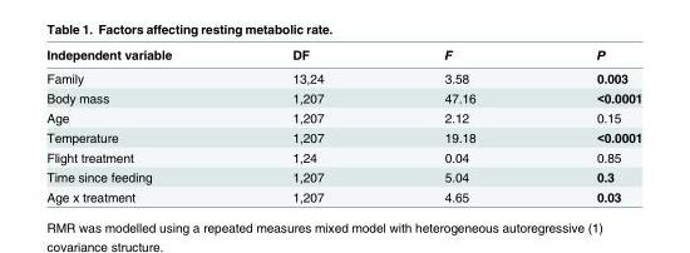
<table><thead><tr><td>Independent variable</td><td>DF</td><td>F</td><td>P</td></tr></thead><tbody><tr><td>Family</td><td>13,24</td><td>3.58</td><td>0.003</td></tr><tr><td>Body mass</td><td>1,207</td><td>47.16</td><td>&lt;0.0001</td></tr><tr><td>Age</td><td>1,207</td><td>2.12</td><td>0.15</td></tr><tr><td>Temperature</td><td>1,207</td><td>19.18</td><td>&lt;0.0001</td></tr><tr><td>Flight treatment</td><td>1,24</td><td>0.04</td><td>0.85</td></tr><tr><td>Time since feeding</td><td>1,207</td><td>5.04</td><td>0.3</td></tr><tr><td>Age x treatment</td><td>1,207</td><td>4.65</td><td>0.03</td></tr></tbody></table>